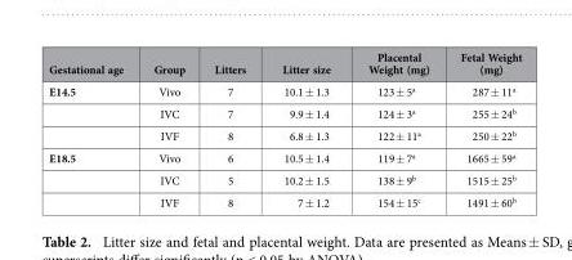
<table><thead><tr><td>Gestational age</td><td>Group</td><td>Litters</td><td>Litter size</td><td>Placental Weight (mg)</td><td>Fetal Weight (mg)</td></tr></thead><tbody><tr><td rowspan="3">E14.5</td><td>Vivo</td><td>7</td><td>10.1 ± 1.3</td><td>123 ± 5<sup>a</sup></td><td>287 ± 11<sup>a</sup></td></tr><tr><td>IVC</td><td>7</td><td>9.9 ± 1.4</td><td>124 ± 3<sup>a</sup></td><td>255 ± 24<sup>b</sup></td></tr><tr><td>IVF</td><td>8</td><td>6.8 ± 1.3</td><td>122 ± 11<sup>a</sup></td><td>250 ± 22<sup>b</sup></td></tr><tr><td rowspan="3">E18.5</td><td>Vivo</td><td>6</td><td>10.5 ± 1.4</td><td>119 ± 7<sup>a</sup></td><td>1665 ± 59<sup>a</sup></td></tr><tr><td>IVC</td><td>5</td><td>10.2 ± 1.5</td><td>138 ± 9<sup>b</sup></td><td>1515 ± 25<sup>b</sup></td></tr><tr><td>IVF</td><td>8</td><td>7 ± 1.2</td><td>154 ± 15<sup>c</sup></td><td>1491 ± 60<sup>b</sup></td></tr></tbody></table>